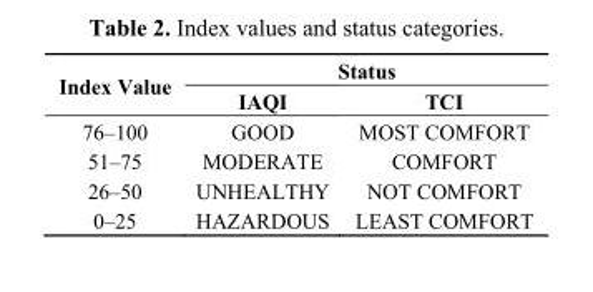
<table><thead><tr><td rowspan="2">Index Value</td><td colspan="2">Status</td></tr><tr><td>IAQI</td><td>TCI</td></tr></thead><tbody><tr><td>76–100</td><td>GOOD</td><td>MOST COMFORT</td></tr><tr><td>51–75</td><td>MODERATE</td><td>COMFORT</td></tr><tr><td>26–50</td><td>UNHEALTHY</td><td>NOT COMFORT</td></tr><tr><td>0–25</td><td>HAZARDOUS</td><td>LEAST COMFORT</td></tr></tbody></table>